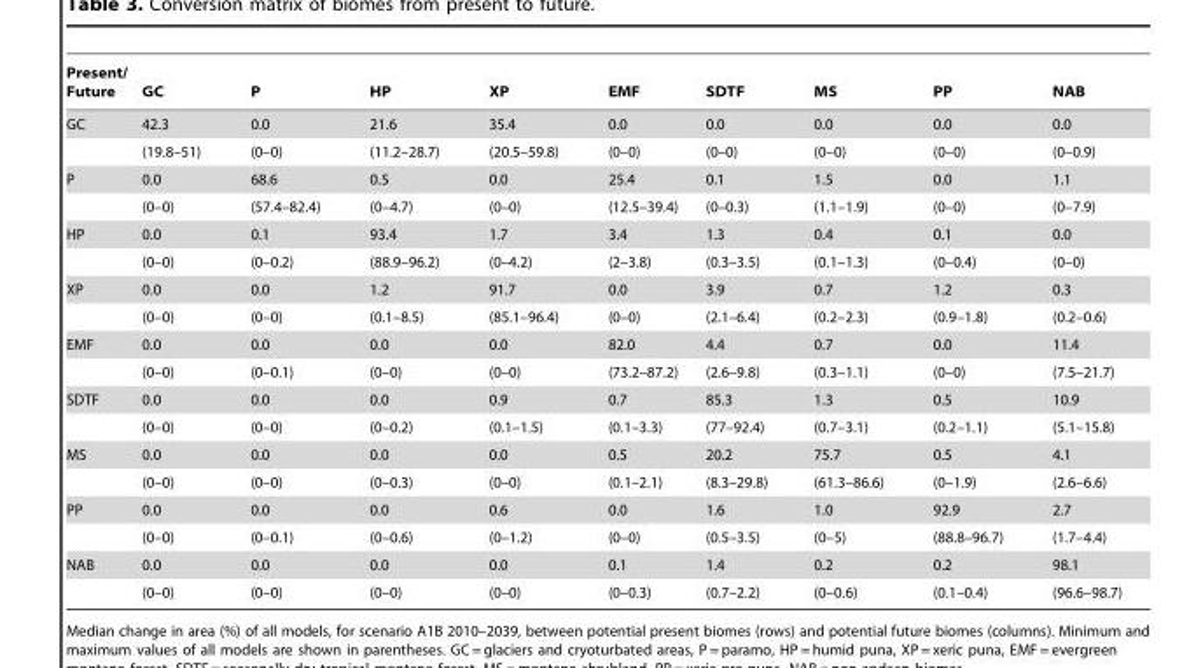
<table><thead><tr><td>Present/ Future</td><td>GC</td><td>P</td><td>HP</td><td>XP</td><td>EMF</td><td>SDTF</td><td>MS</td><td>PP</td><td>NAB</td></tr></thead><tbody><tr><td rowspan="2">GC</td><td>42.3</td><td>0.0</td><td>21.6</td><td>35.4</td><td>0.0</td><td>0.0</td><td>0.0</td><td>0.0</td><td>0.0</td></tr><tr><td>(19.8–51)</td><td>(0–0)</td><td>(11.2–28.7)</td><td>(20.5–59.8)</td><td>(0–0)</td><td>(0–0)</td><td>(0–0)</td><td>(0–0)</td><td>(0–0.9)</td></tr><tr><td rowspan="2">P</td><td>0.0</td><td>68.6</td><td>0.5</td><td>0.0</td><td>25.4</td><td>0.1</td><td>1.5</td><td>0.0</td><td>1.1</td></tr><tr><td>(0–0)</td><td>(57.4–82.4)</td><td>(0–4.7)</td><td>(0–0)</td><td>(12.5–39.4)</td><td>(0–0.3)</td><td>(1.1–1.9)</td><td>(0–0)</td><td>(0–7.9)</td></tr><tr><td rowspan="2">HP</td><td>0.0</td><td>0.1</td><td>93.4</td><td>1.7</td><td>3.4</td><td>1.3</td><td>0.4</td><td>0.1</td><td>0.0</td></tr><tr><td>(0–0)</td><td>(0–0.2)</td><td>(88.9–96.2)</td><td>(0–4.2)</td><td>(2–3.8)</td><td>(0.3–3.5)</td><td>(0.1–1.3)</td><td>(0–0.4)</td><td>(0–0)</td></tr><tr><td rowspan="2">XP</td><td>0.0</td><td>0.0</td><td>1.2</td><td>91.7</td><td>0.0</td><td>3.9</td><td>0.7</td><td>1.2</td><td>0.3</td></tr><tr><td>(0–0)</td><td>(0–0)</td><td>(0.1–8.5)</td><td>(85.1–96.4)</td><td>(0–0)</td><td>(2.1–6.4)</td><td>(0.2–2.3)</td><td>(0.9–1.8)</td><td>(0.2–0.6)</td></tr><tr><td rowspan="2">EMF</td><td>0.0</td><td>0.0</td><td>0.0</td><td>0.0</td><td>82.0</td><td>4.4</td><td>0.7</td><td>0.0</td><td>11.4</td></tr><tr><td>(0–0)</td><td>(0–0.1)</td><td>(0–0)</td><td>(0–0)</td><td>(73.2–87.2)</td><td>(2.6–9.8)</td><td>(0.3–1.1)</td><td>(0–0)</td><td>(7.5–21.7)</td></tr><tr><td rowspan="2">SDTF</td><td>0.0</td><td>0.0</td><td>0.0</td><td>0.9</td><td>0.7</td><td>85.3</td><td>1.3</td><td>0.5</td><td>10.9</td></tr><tr><td>(0–0)</td><td>(0–0)</td><td>(0–0.2)</td><td>(0.1–1.5)</td><td>(0.1–3.3)</td><td>(77–92.4)</td><td>(0.7–3.1)</td><td>(0.2–1.1)</td><td>(5.1–15.8)</td></tr><tr><td rowspan="2">MS</td><td>0.0</td><td>0.0</td><td>0.0</td><td>0.0</td><td>0.5</td><td>20.2</td><td>75.7</td><td>0.5</td><td>4.1</td></tr><tr><td>(0–0)</td><td>(0–0)</td><td>(0–0.3)</td><td>(0–0)</td><td>(0.1–2.1)</td><td>(8.3–29.8)</td><td>(61.3–86.6)</td><td>(0–1.9)</td><td>(2.6–6.6)</td></tr><tr><td rowspan="2">PP</td><td>0.0</td><td>0.0</td><td>0.0</td><td>0.6</td><td>0.0</td><td>1.6</td><td>1.0</td><td>92.9</td><td>2.7</td></tr><tr><td>(0–0)</td><td>(0–0.1)</td><td>(0–0.6)</td><td>(0–1.2)</td><td>(0–0)</td><td>(0.5–3.5)</td><td>(0–5)</td><td>(88.8–96.7)</td><td>(1.7–4.4)</td></tr><tr><td rowspan="2">NAB</td><td>0.0</td><td>0.0</td><td>0.0</td><td>0.0</td><td>0.1</td><td>1.4</td><td>0.2</td><td>0.2</td><td>98.1</td></tr><tr><td>(0–0)</td><td>(0–0)</td><td>(0–0)</td><td>(0–0)</td><td>(0–0.3)</td><td>(0.7–2.2)</td><td>(0–0.6)</td><td>(0.1–0.4)</td><td>(96.6–98.7)</td></tr></tbody></table>